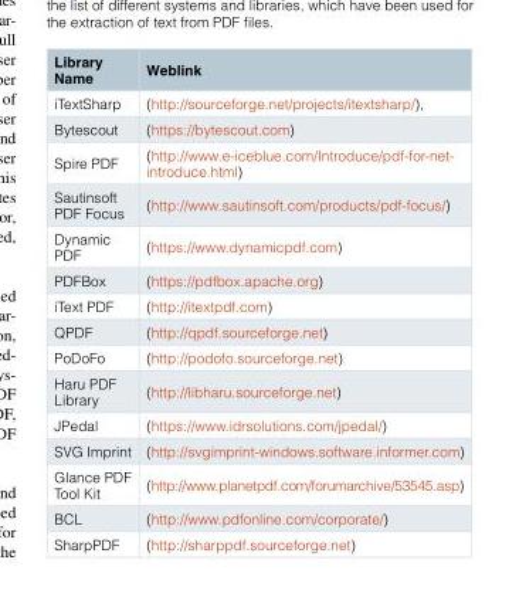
<table><thead><tr><td>Library Name</td><td>Weblink</td></tr></thead><tbody><tr><td>iTextSharp</td><td>(http://sourceforge.net/projects/itextsharp/),</td></tr><tr><td>Bytescout</td><td>(https://bytescout.com)</td></tr><tr><td>Spire PDF</td><td>(http://www.e-iceblue.com/Introduce/pdf-for-net- introduce.html)</td></tr><tr><td>Sautinsoft PDF Focus</td><td>(http://www.sautinsoft.com/products/pdf-focus/)</td></tr><tr><td>Dynamic PDF</td><td>(https://www.dynamicpdf.com)</td></tr><tr><td>PDFBox</td><td>(https://pdfbox.apache.org)</td></tr><tr><td>iText PDF</td><td>(http://itextpdf.com)</td></tr><tr><td>QPDF</td><td>(http://qpdf.sourceforge.net)</td></tr><tr><td>PoDoFo</td><td>(http://podofo.sourceforge.net)</td></tr><tr><td>Haru PDF Library</td><td>(http://libharu.sourceforge.net)</td></tr><tr><td>JPedal</td><td>(https://www.idrsolutions.com/jpedal/)</td></tr><tr><td>SVG Imprint</td><td>(http://svgimprint-windows.software.informer.com)</td></tr><tr><td>Glance PDF Tool Kit</td><td>(http://www.planetpdf.com/forumarchive/53545.asp)</td></tr><tr><td>BCL</td><td>(http://www.pdfonline.com/corporate/)</td></tr><tr><td>SharpPDF</td><td>(http://sharppdf.sourceforge.net)</td></tr></tbody></table>